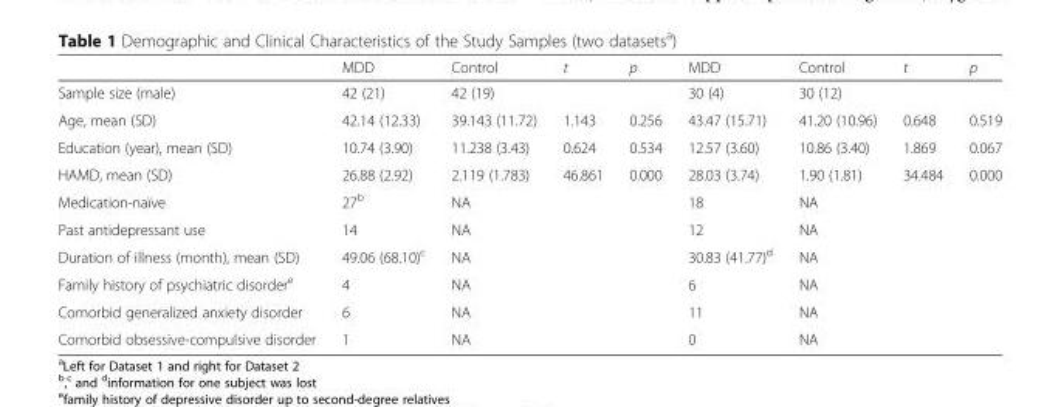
<table><thead><tr><td></td><td>MDD</td><td>Control</td><td>t</td><td>p</td><td>MDD</td><td>Control</td><td>t</td><td>p</td></tr></thead><tbody><tr><td>Sample size (male)</td><td>42 (21)</td><td>42 (19)</td><td></td><td></td><td>30 (4)</td><td>30 (12)</td><td></td><td></td></tr><tr><td>Age, mean (SD)</td><td>42.14 (12.33)</td><td>39.143 (11.72)</td><td>1.143</td><td>0.256</td><td>43.47 (15.71)</td><td>41.20 (10.96)</td><td>0.648</td><td>0.519</td></tr><tr><td>Education (year), mean (SD)</td><td>10.74 (3.90)</td><td>11.238 (3.43)</td><td>0.624</td><td>0.534</td><td>12.57 (3.60)</td><td>10.86 (3.40)</td><td>1.869</td><td>0.067</td></tr><tr><td>HAMD, mean (SD)</td><td>26.88 (2.92)</td><td>2.119 (1.783)</td><td>46.861</td><td>0.000</td><td>28.03 (3.74)</td><td>1.90 (1.81)</td><td>34.484</td><td>0.000</td></tr><tr><td>Medication-naïve</td><td>27<sup>b</sup></td><td>NA</td><td></td><td></td><td>18</td><td>NA</td><td></td><td></td></tr><tr><td>Past antidepressant use</td><td>14</td><td>NA</td><td></td><td></td><td>12</td><td>NA</td><td></td><td></td></tr><tr><td>Duration of illness (month), mean (SD)</td><td>49.06 (68.10)<sup>c</sup></td><td>NA</td><td></td><td></td><td>30.83 (41.77)<sup>d</sup></td><td>NA</td><td></td><td></td></tr><tr><td>Family history of psychiatric disorder<sup>e</sup></td><td>4</td><td>NA</td><td></td><td></td><td>6</td><td>NA</td><td></td><td></td></tr><tr><td>Comorbid generalized anxiety disorder</td><td>6</td><td>NA</td><td></td><td></td><td>11</td><td>NA</td><td></td><td></td></tr><tr><td>Comorbid obsessive-compulsive disorder</td><td>1</td><td>NA</td><td></td><td></td><td>0</td><td>NA</td><td></td><td></td></tr></tbody></table>